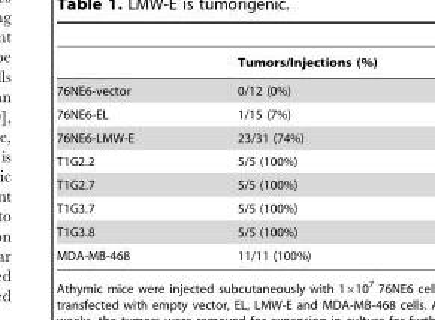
<table><thead><tr><td></td><td>Tumors/Injections (%)</td></tr></thead><tbody><tr><td>76NE6-vector</td><td>0/12 (0%)</td></tr><tr><td>76NE6-EL</td><td>1/15 (7%)</td></tr><tr><td>76NE6-LMW-E</td><td>23/31 (74%)</td></tr><tr><td>T1G2.2</td><td>5/5 (100%)</td></tr><tr><td>T1G2.7</td><td>5/5 (100%)</td></tr><tr><td>T1G3.7</td><td>5/5 (100%)</td></tr><tr><td>T1G3.8</td><td>5/5 (100%)</td></tr><tr><td>MDA-MB-468</td><td>11/11 (100%)</td></tr></tbody></table>